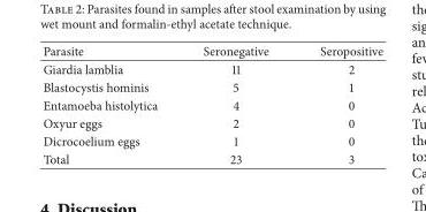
<table><thead><tr><td>Parasite</td><td>Seronegative</td><td>Seropositive</td></tr></thead><tbody><tr><td>Giardia lamblia</td><td>11</td><td>2</td></tr><tr><td>Blastocystis hominis</td><td>5</td><td>1</td></tr><tr><td>Entamoeba histolytica</td><td>4</td><td>0</td></tr><tr><td>Oxyur eggs</td><td>2</td><td>0</td></tr><tr><td>Dicrocoelium eggs</td><td>1</td><td>0</td></tr><tr><td>Total</td><td>23</td><td>3</td></tr></tbody></table>